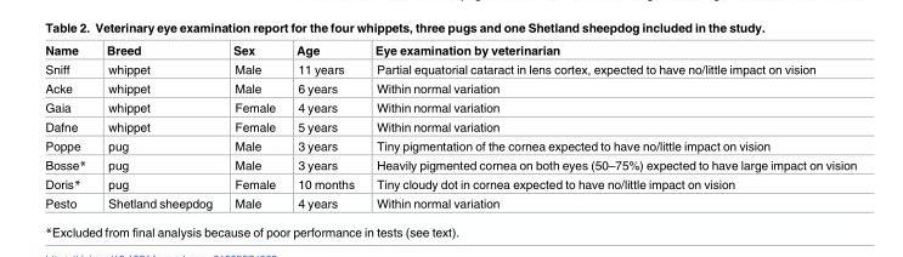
<table><thead><tr><td>Name</td><td>Breed</td><td>Sex</td><td>Age</td><td>Eye examination by veterinarian</td></tr></thead><tbody><tr><td>Sniff</td><td>whippet</td><td>Male</td><td>11 years</td><td>Partial equatorial cataract in lens cortex, expected to have no/little impact on vision</td></tr><tr><td>Acke</td><td>whippet</td><td>Male</td><td>6 years</td><td>Within normal variation</td></tr><tr><td>Gaia</td><td>whippet</td><td>Female</td><td>4 years</td><td>Within normal variation</td></tr><tr><td>Dafne</td><td>whippet</td><td>Female</td><td>5 years</td><td>Within normal variation</td></tr><tr><td>Poppe</td><td>pug</td><td>Male</td><td>3 years</td><td>Tiny pigmentation of the cornea expected to have no/little impact on vision</td></tr><tr><td>Bosse*</td><td>pug</td><td>Male</td><td>3 years</td><td>Heavily pigmented cornea on both eyes (50–75%) expected to have large impact on vision</td></tr><tr><td>Doris*</td><td>pug</td><td>Female</td><td>10 months</td><td>Tiny cloudy dot in cornea expected to have no/little impact on vision</td></tr><tr><td>Pesto</td><td>Shetland sheepdog</td><td>Male</td><td>4 years</td><td>Within normal variation</td></tr></tbody></table>